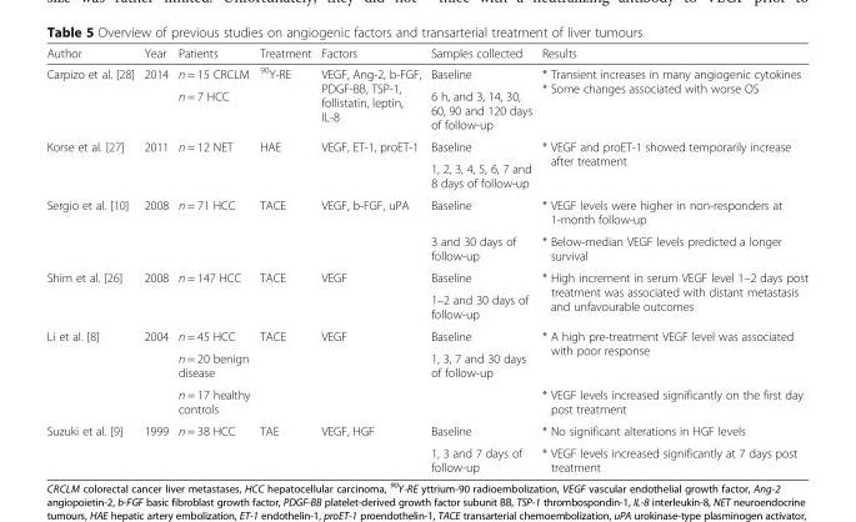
<table><thead><tr><td>Author</td><td>Year</td><td>Patients</td><td>Treatment</td><td>Factors</td><td>Samples collected</td><td>Results</td></tr></thead><tbody><tr><td rowspan="2">Carpizo et al. [28]</td><td rowspan="2">2014</td><td>n = 15 CRCLM</td><td rowspan="2"><sup>90</sup>Y-RE</td><td rowspan="2">VEGF, Ang-2, b-FGF, PDGF-BB, TSP-1, follistatin, leptin, IL-8</td><td>Baseline</td><td rowspan="2">* Transient increases in many angiogenic cytokines * Some changes associated with worse OS</td></tr><tr><td>n = 7 HCC</td><td>6 h, and 3, 14, 30, 60, 90 and 120 days of follow-up</td></tr><tr><td rowspan="2">Korse et al. [27]</td><td rowspan="2">2011</td><td rowspan="2">n = 12 NET</td><td rowspan="2">HAE</td><td rowspan="2">VEGF, ET-1, proET-1</td><td>Baseline</td><td rowspan="2">* VEGF and proET-1 showed temporarily increase after treatment</td></tr><tr><td>1, 2, 3, 4, 5, 6, 7 and 8 days of follow-up</td></tr><tr><td rowspan="2">Sergio et al. [10]</td><td rowspan="2">2008</td><td rowspan="2">n = 71 HCC</td><td rowspan="2">TACE</td><td rowspan="2">VEGF, b-FGF, uPA</td><td>Baseline</td><td>* VEGF levels were higher in non-responders at 1-month follow-up</td></tr><tr><td>3 and 30 days of follow-up</td><td>* Below-median VEGF levels predicted a longer survival</td></tr><tr><td rowspan="2">Shim et al. [26]</td><td rowspan="2">2008</td><td rowspan="2">n = 147 HCC</td><td rowspan="2">TACE</td><td rowspan="2">VEGF</td><td>Baseline</td><td rowspan="2">* High increment in serum VEGF level 1–2 days post treatment was associated with distant metastasis and unfavourable outcomes</td></tr><tr><td>1–2 and 30 days of follow-up</td></tr><tr><td rowspan="3">Li et al. [8]</td><td rowspan="3">2004</td><td>n = 45 HCC</td><td rowspan="3">TACE</td><td rowspan="3">VEGF</td><td>Baseline</td><td rowspan="2">* A high pre-treatment VEGF level was associated with poor response</td></tr><tr><td>n = 20 benign disease</td><td rowspan="2">1, 3, 7 and 30 days of follow-up</td></tr><tr><td>n = 17 healthy controls</td><td>* VEGF levels increased significantly on the first day post treatment</td></tr><tr><td rowspan="2">Suzuki et al. [9]</td><td rowspan="2">1999</td><td rowspan="2">n = 38 HCC</td><td rowspan="2">TAE</td><td rowspan="2">VEGF, HGF</td><td>Baseline</td><td>* No significant alterations in HGF levels</td></tr><tr><td>1, 3 and 7 days of follow-up</td><td>* VEGF levels increased significantly at 7 days post treatment</td></tr></tbody></table>